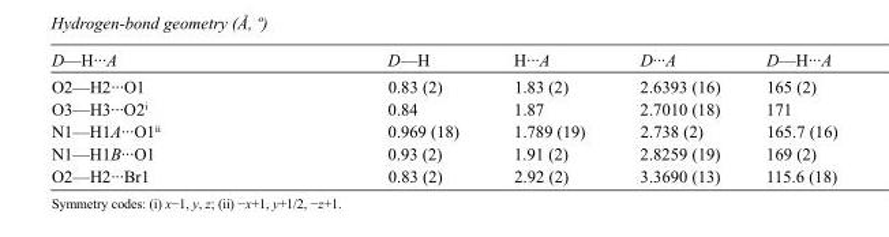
<table><tbody><tr><td>D—H···A</td><td>D—H</td><td>H···A</td><td>D···A</td><td>D—H···A</td></tr><tr><td>O2—H2···O1</td><td>0.83 (2)</td><td>1.83 (2)</td><td>2.6393 (16)</td><td>165 (2)</td></tr><tr><td>O3—H3···O2<sup>i</sup></td><td>0.84</td><td>1.87</td><td>2.7010 (18)</td><td>171</td></tr><tr><td>N1—H1A···O1<sup>ii</sup></td><td>0.969 (18)</td><td>1.789 (19)</td><td>2.738 (2)</td><td>165.7 (16)</td></tr><tr><td>N1—H1B···O1</td><td>0.93 (2)</td><td>1.91 (2)</td><td>2.8259 (19)</td><td>169 (2)</td></tr><tr><td>O2—H2···Br1</td><td>0.83 (2)</td><td>2.92 (2)</td><td>3.3690 (13)</td><td>115.6 (18)</td></tr></tbody></table>